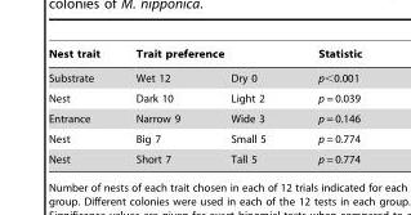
<table><thead><tr><td rowspan="2">Nest trait Substrate</td><td colspan="2">Trait preference</td><td rowspan="2">Statistic p&lt;0.001</td></tr><tr><td>Wet 12</td><td>Dry 0</td></tr></thead><tbody><tr><td>Nest</td><td>Dark 10</td><td>Light 2</td><td>p = 0.039</td></tr><tr><td>Entrance</td><td>Narrow 9</td><td>Wide 3</td><td>p = 0.146</td></tr><tr><td>Nest</td><td>Big 7</td><td>Small 5</td><td>p = 0.774</td></tr><tr><td>Nest</td><td>Short 7</td><td>Tall 5</td><td>p = 0.774</td></tr></tbody></table>